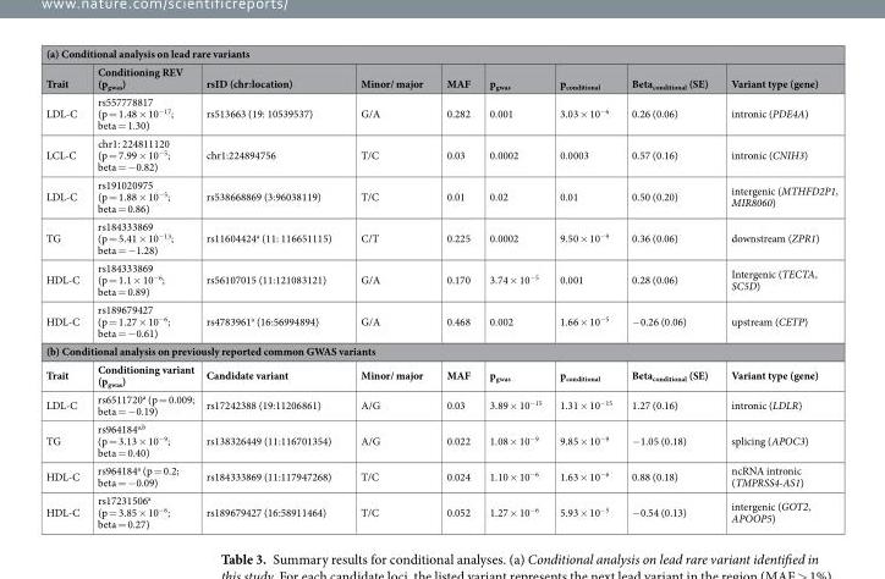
<table><thead><tr><td colspan="9">(a) Conditional analysis on lead rare variants</td></tr><tr><td>Trait</td><td>Conditioning REV (p<sub>gwas</sub>)</td><td>rsID (chr:location)</td><td>Minor/ major</td><td>MAF</td><td>p<sub>gwas</sub></td><td>p<sub>conditional</sub></td><td>Beta<sub>conditional</sub> (SE)</td><td>Variant type (gene)</td></tr></thead><tbody><tr><td>LDL-C</td><td>rs557778817 (p = 1.48 × 10<sup>−17</sup>; beta = 1.30)</td><td>rs513663 (19: 10539537)</td><td>G/A</td><td>0.282</td><td>0.001</td><td>3.03 × 10<sup>−6</sup></td><td>0.26 (0.06)</td><td>intronic (PDE4A)</td></tr><tr><td>LCL-C</td><td>chr1: 224811120 (p = 7.99 × 10<sup>−5</sup>; beta = −0.82)</td><td>chr1:224894756</td><td>T/C</td><td>0.03</td><td>0.0002</td><td>0.0003</td><td>0.57 (0.16)</td><td>intronic (CNIH3)</td></tr><tr><td>LDL-C</td><td>rs191020975 (p = 1.88 × 10<sup>−5</sup>; beta = 0.86)</td><td>rs538668869 (3:96038119)</td><td>T/C</td><td>0.01</td><td>0.02</td><td>0.01</td><td>0.50 (0.20)</td><td>intergenic (MTHFD2P1, MIR8060)</td></tr><tr><td>TG</td><td>rs184333869 (p = 5.41 × 10<sup>−13</sup>; beta = −1.28)</td><td>rs11604424<sup>a</sup> (11: 116651115)</td><td>C/T</td><td>0.225</td><td>0.0002</td><td>9.50 × 10<sup>−9</sup></td><td>0.36 (0.06)</td><td>downstream (ZPR1)</td></tr><tr><td>HDL-C</td><td>rs184333869 (p = 1.1 × 10<sup>−6</sup>; beta = 0.89)</td><td>rs56107015 (11:121083121)</td><td>G/A</td><td>0.170</td><td>3.74 × 10<sup>−5</sup></td><td>0.001</td><td>0.28 (0.06)</td><td>Intergenic (TECTA, SC5D)</td></tr><tr><td>HDL-C</td><td>rs189679427 (p = 1.27 × 10<sup>−6</sup>; beta = −0.61)</td><td>rs4783961<sup>a</sup> (16:56994894)</td><td>G/A</td><td>0.468</td><td>0.002</td><td>1.66 × 10<sup>−5</sup></td><td>−0.26 (0.06)</td><td>upstream (CETP)</td></tr><tr><td colspan="9">(b) Conditional analysis on previously reported common GWAS variants</td></tr><tr><td>Trait</td><td>Conditioning variant (p<sub>gwas</sub>)</td><td>Candidate variant</td><td>Minor/ major</td><td>MAF</td><td>p<sub>gwas</sub></td><td>p<sub>conditional</sub></td><td>Beta<sub>conditional</sub> (SE)</td><td>Variant type (gene)</td></tr><tr><td>LDL-C</td><td>rs6511720<sup>a</sup> (p = 0.009; beta = −0.19)</td><td>rs17242388 (19:11206861)</td><td>A/G</td><td>0.03</td><td>3.89 × 10<sup>−15</sup></td><td>1.31 × 10<sup>−15</sup></td><td>1.27 (0.16)</td><td>intronic (LDLR)</td></tr><tr><td>TG</td><td>rs964184<sup>a,b</sup> (p = 3.13 × 10<sup>−9</sup>; beta = 0.40)</td><td>rs138326449 (11:116701354)</td><td>A/G</td><td>0.022</td><td>1.08 × 10<sup>−9</sup></td><td>9.85 × 10<sup>−9</sup></td><td>−1.05 (0.18)</td><td>splicing (APOC3)</td></tr><tr><td>HDL-C</td><td>rs964184<sup>a</sup> (p = 0.2; beta = −0.09)</td><td>rs184333869 (11:117947268)</td><td>T/C</td><td>0.024</td><td>1.10 × 10<sup>−6</sup></td><td>1.63 × 10<sup>−6</sup></td><td>0.88 (0.18)</td><td>ncRNA intronic (TMPRSS4-AS1)</td></tr><tr><td>HDL-C</td><td>rs17231506<sup>a</sup> (p = 3.85 × 10<sup>−6</sup>; beta = 0.27)</td><td>rs189679427 (16:58911464)</td><td>T/C</td><td>0.052</td><td>1.27 × 10<sup>−6</sup></td><td>5.93 × 10<sup>−5</sup></td><td>−0.54 (0.13)</td><td>intergenic (GOT2, APOOP5)</td></tr></tbody></table>